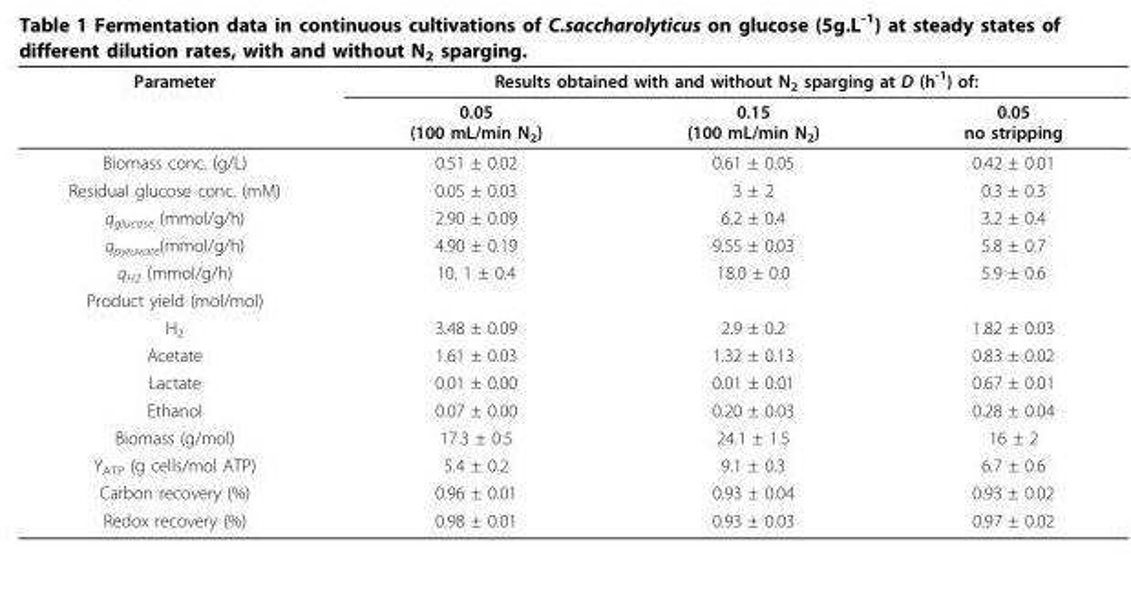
<table><thead><tr><td rowspan="2">Parameter</td><td colspan="3">Results obtained with and without N<sub>2</sub> sparging at D (h<sup>-1</sup>) of:</td></tr><tr><td>0.05 (100 mL/min N<sub>2</sub>)</td><td>0.15 (100 mL/min N<sub>2</sub>)</td><td>0.05 no stripping</td></tr></thead><tbody><tr><td>Biomass conc. (g/L)</td><td>0.51 ± 0.02</td><td>0.61 ± 0.05</td><td>0.42 ± 0.01</td></tr><tr><td>Residual glucose conc. (mM)</td><td>0.05 ± 0.03</td><td>3 ± 2</td><td>0.3 ± 0.3</td></tr><tr><td>q<sub>glucose</sub> (mmol/g/h)</td><td>2.90 ± 0.09</td><td>6.2 ± 0.4</td><td>3.2 ± 0.4</td></tr><tr><td>q<sub>pyruvate</sub>(mmol/g/h)</td><td>4.90 ± 0.19</td><td>9.55 ± 0.03</td><td>5.8 ± 0.7</td></tr><tr><td>q<sub>H2</sub> (mmol/g/h)</td><td>10. 1 ± 0.4</td><td>18.0 ± 0.0</td><td>5.9 ± 0.6</td></tr><tr><td colspan="4">Product yield (mol/mol)</td></tr><tr><td>H<sub>2</sub></td><td>3.48 ± 0.09</td><td>2.9 ± 0.2</td><td>1.82 ± 0.03</td></tr><tr><td>Acetate</td><td>1.61 ± 0.03</td><td>1.32 ± 0.13</td><td>0.83 ± 0.02</td></tr><tr><td>Lactate</td><td>0.01 ± 0.00</td><td>0.01 ± 0.01</td><td>0.67 ± 0.01</td></tr><tr><td>Ethanol</td><td>0.07 ± 0.00</td><td>0.20 ± 0.03</td><td>0.28 ± 0.04</td></tr><tr><td>Biomass (g/mol)</td><td>17.3 ± 0.5</td><td>24.1 ± 1.5</td><td>16 ± 2</td></tr><tr><td>Y<sub>ATP</sub> (g cells/mol ATP)</td><td>5.4 ± 0.2</td><td>9.1 ± 0.3</td><td>6.7 ± 0.6</td></tr><tr><td>Carbon recovery (%)</td><td>0.96 ± 0.01</td><td>0.93 ± 0.04</td><td>0.93 ± 0.02</td></tr><tr><td>Redox recovery (%)</td><td>0.98 ± 0.01</td><td>0.93 ± 0.03</td><td>0.97 ± 0.02</td></tr></tbody></table>